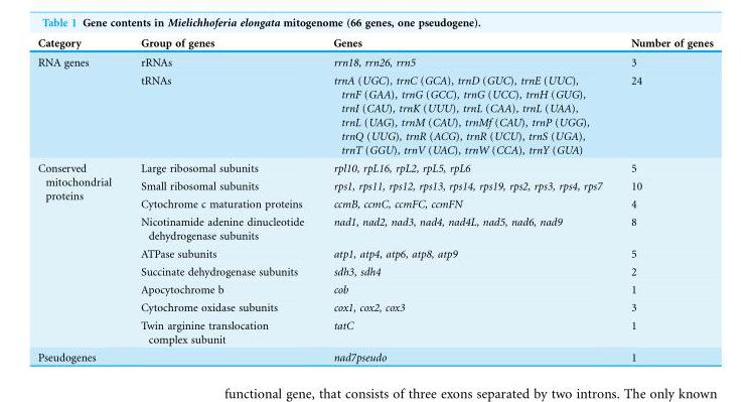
<table><thead><tr><td>Category</td><td>Group of genes</td><td>Genes</td><td>Number of genes</td></tr></thead><tbody><tr><td rowspan="2">RNA genes</td><td>rRNAs</td><td>rrn18, rrn26, rrn5</td><td>3</td></tr><tr><td>tRNAs</td><td>trnA (UGC), trnC (GCA), trnD (GUC), trnE (UUC), trnF (GAA), trnG (GCC), trnG (UCC), trnH (GUG), trnI (CAU), trnK (UUU), trnL (CAA), trnL (UAA), trnL (UAG), trnM (CAU), trnMf (CAU), trnP (UGG), trnQ (UUG), trnR (ACG), trnR (UCU), trnS (UGA), trnT (GGU), trnV (UAC), trnW (CCA), trnY (GUA)</td><td>24</td></tr><tr><td rowspan="9">Conserved mitochondrial proteins</td><td>Large ribosomal subunits</td><td>rpl10, rpL16, rpL2, rpL5, rpL6</td><td>5</td></tr><tr><td>Small ribosomal subunits</td><td>rps1, rps11, rps12, rps13, rps14, rps19, rps2, rps3, rps4, rps7</td><td>10</td></tr><tr><td>Cytochrome c maturation proteins</td><td>ccmB, ccmC, ccmFC, ccmFN</td><td>4</td></tr><tr><td>Nicotinamide adenine dinucleotide dehydrogenase subunits</td><td>nad1, nad2, nad3, nad4, nad4L, nad5, nad6, nad9</td><td>8</td></tr><tr><td>ATPase subunits</td><td>atp1, atp4, atp6, atp8, atp9</td><td>5</td></tr><tr><td>Succinate dehydrogenase subunits</td><td>sdh3, sdh4</td><td>2</td></tr><tr><td>Apocytochrome b</td><td>cob</td><td>1</td></tr><tr><td>Cytochrome oxidase subunits</td><td>cox1, cox2, cox3</td><td>3</td></tr><tr><td>Twin arginine translocation complex subunit</td><td>tatC</td><td>1</td></tr><tr><td>Pseudogenes</td><td></td><td>nad7pseudo</td><td>1</td></tr></tbody></table>